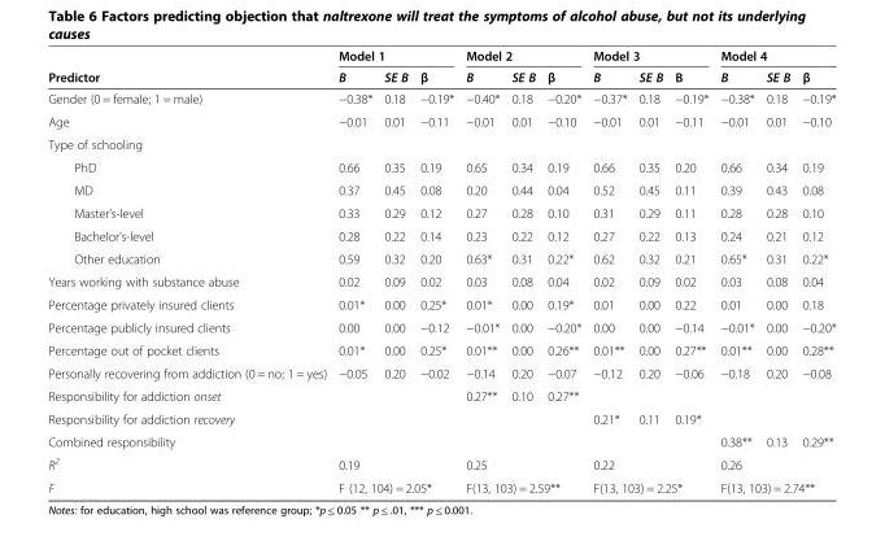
<table><thead><tr><td rowspan="2">Predictor</td><td colspan="3">Model 1</td><td colspan="3">Model 2</td><td colspan="3">Model 3</td><td colspan="3">Model 4</td></tr><tr><td>B</td><td>SE B</td><td>β</td><td>B</td><td>SE B</td><td>β</td><td>B</td><td>SE B</td><td>Β</td><td>B</td><td>SE B</td><td>β</td></tr></thead><tbody><tr><td>Gender (0 = female; 1 = male)</td><td>−0.38*</td><td>0.18</td><td>−0.19*</td><td>−0.40*</td><td>0.18</td><td>−0.20*</td><td>−0.37*</td><td>0.18</td><td>−0.19*</td><td>−0.38*</td><td>0.18</td><td>−0.19*</td></tr><tr><td>Age</td><td>−0.01</td><td>0.01</td><td>−0.11</td><td>−0.01</td><td>0.01</td><td>−0.10</td><td>−0.01</td><td>0.01</td><td>−0.11</td><td>−0.01</td><td>0.01</td><td>−0.10</td></tr><tr><td colspan="13">Type of schooling</td></tr><tr><td>PhD</td><td>0.66</td><td>0.35</td><td>0.19</td><td>0.65</td><td>0.34</td><td>0.19</td><td>0.66</td><td>0.35</td><td>0.20</td><td>0.66</td><td>0.34</td><td>0.19</td></tr><tr><td>MD</td><td>0.37</td><td>0.45</td><td>0.08</td><td>0.20</td><td>0.44</td><td>0.04</td><td>0.52</td><td>0.45</td><td>0.11</td><td>0.39</td><td>0.43</td><td>0.08</td></tr><tr><td>Master’s-level</td><td>0.33</td><td>0.29</td><td>0.12</td><td>0.27</td><td>0.28</td><td>0.10</td><td>0.31</td><td>0.29</td><td>0.11</td><td>0.28</td><td>0.28</td><td>0.10</td></tr><tr><td>Bachelor’s-level</td><td>0.28</td><td>0.22</td><td>0.14</td><td>0.23</td><td>0.22</td><td>0.12</td><td>0.27</td><td>0.22</td><td>0.13</td><td>0.24</td><td>0.21</td><td>0.12</td></tr><tr><td>Other education</td><td>0.59</td><td>0.32</td><td>0.20</td><td>0.63*</td><td>0.31</td><td>0.22*</td><td>0.62</td><td>0.32</td><td>0.21</td><td>0.65*</td><td>0.31</td><td>0.22*</td></tr><tr><td>Years working with substance abuse</td><td>0.02</td><td>0.09</td><td>0.02</td><td>0.03</td><td>0.08</td><td>0.04</td><td>0.02</td><td>0.09</td><td>0.02</td><td>0.03</td><td>0.08</td><td>0.04</td></tr><tr><td>Percentage privately insured clients</td><td>0.01*</td><td>0.00</td><td>0.25*</td><td>0.01*</td><td>0.00</td><td>0.19*</td><td>0.01</td><td>0.00</td><td>0.22</td><td>0.01</td><td>0.00</td><td>0.18</td></tr><tr><td>Percentage publicly insured clients</td><td>0.00</td><td>0.00</td><td>−0.12</td><td>−0.01*</td><td>0.00</td><td>−0.20*</td><td>0.00</td><td>0.00</td><td>−0.14</td><td>−0.01*</td><td>0.00</td><td>−0.20*</td></tr><tr><td>Percentage out of pocket clients</td><td>0.01*</td><td>0.00</td><td>0.25*</td><td>0.01**</td><td>0.00</td><td>0.26**</td><td>0.01**</td><td>0.00</td><td>0.27**</td><td>0.01**</td><td>0.00</td><td>0.28**</td></tr><tr><td>Personally recovering from addiction (0 = no; 1 = yes)</td><td>−0.05</td><td>0.20</td><td>−0.02</td><td>−0.14</td><td>0.20</td><td>−0.07</td><td>−0.12</td><td>0.20</td><td>−0.06</td><td>−0.18</td><td>0.20</td><td>−0.08</td></tr><tr><td>Responsibility for addiction onset</td><td></td><td></td><td></td><td>0.27**</td><td>0.10</td><td>0.27**</td><td></td><td></td><td></td><td></td><td></td><td></td></tr><tr><td>Responsibility for addiction recovery</td><td></td><td></td><td></td><td></td><td></td><td></td><td>0.21*</td><td>0.11</td><td>0.19*</td><td></td><td></td><td></td></tr><tr><td>Combined responsibility</td><td></td><td></td><td></td><td></td><td colspan="3"></td><td colspan="2"></td><td>0.38**</td><td>0.13</td><td>0.29**</td></tr><tr><td>R<sup>2</sup></td><td colspan="3">0.19</td><td colspan="3">0.25</td><td colspan="3">0.22</td><td colspan="3">0.26</td></tr><tr><td>F</td><td colspan="3">F (12, 104) = 2.05*</td><td colspan="3">F(13, 103) = 2.59**</td><td colspan="3">F(13, 103) = 2.25*</td><td colspan="3">F(13, 103) = 2.74**</td></tr></tbody></table>